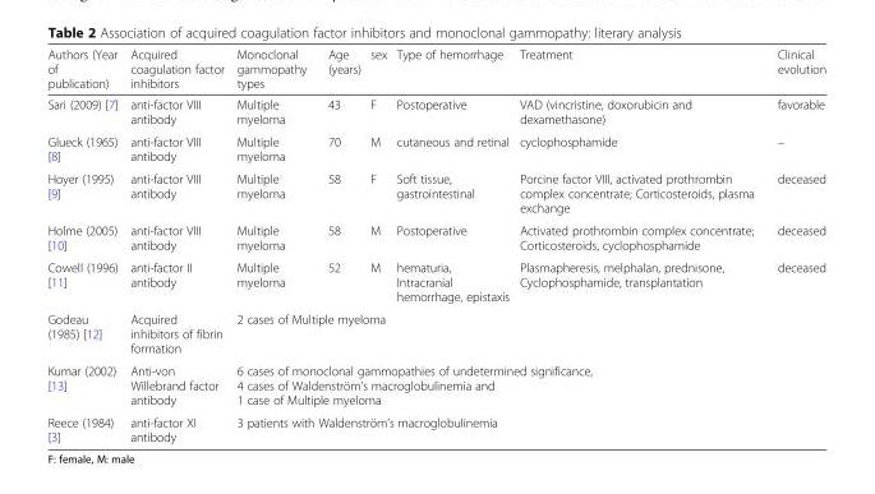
<table><thead><tr><td>Authors (Year of publication)</td><td>Acquired coagulation factor inhibitors</td><td>Monoclonal gammopathy types</td><td>Age (years)</td><td>sex</td><td>Type of hemorrhage</td><td>Treatment</td><td>Clinical evolution</td></tr></thead><tbody><tr><td>Sari (2009) [7]</td><td>anti-factor VIII antibody</td><td>Multiple myeloma</td><td>43</td><td>F</td><td>Postoperative</td><td>VAD (vincristine, doxorubicin and dexamethasone)</td><td>favorable</td></tr><tr><td>Glueck (1965) [8]</td><td>anti-factor VIII antibody</td><td>Multiple myeloma</td><td>70</td><td>M</td><td>cutaneous and retinal</td><td>cyclophosphamide</td><td>–</td></tr><tr><td>Hoyer (1995) [9]</td><td>anti-factor VIII antibody</td><td>Multiple myeloma</td><td>58</td><td>F</td><td>Soft tissue, gastrointestinal</td><td>Porcine factor VIII, activated prothrombin complex concentrate; Corticosteroids, plasma exchange</td><td>deceased</td></tr><tr><td>Holme (2005) [10]</td><td>anti-factor VIII antibody</td><td>Multiple myeloma</td><td>58</td><td>M</td><td>Postoperative</td><td>Activated prothrombin complex concentrate; Corticosteroids, cyclophosphamide</td><td>deceased</td></tr><tr><td>Cowell (1996) [11]</td><td>anti-factor II antibody</td><td>Multiple myeloma</td><td>52</td><td>M</td><td>hematuria, Intracranial hemorrhage, epistaxis</td><td>Plasmapheresis, melphalan, prednisone, Cyclophosphamide, transplantation</td><td>deceased</td></tr><tr><td>Godeau (1985) [12]</td><td>Acquired inhibitors of fibrin formation</td><td colspan="6">2 cases of Multiple myeloma</td></tr><tr><td>Kumar (2002) [13]</td><td>Anti-von Willebrand factor antibody</td><td colspan="6">6 cases of monoclonal gammopathies of undetermined significance, 4 cases of Waldenström’s macroglobulinemia and 1 case of Multiple myeloma</td></tr><tr><td>Reece (1984) [3]</td><td>anti-factor XI antibody</td><td colspan="6">3 patients with Waldenström’s macroglobulinemia</td></tr></tbody></table>